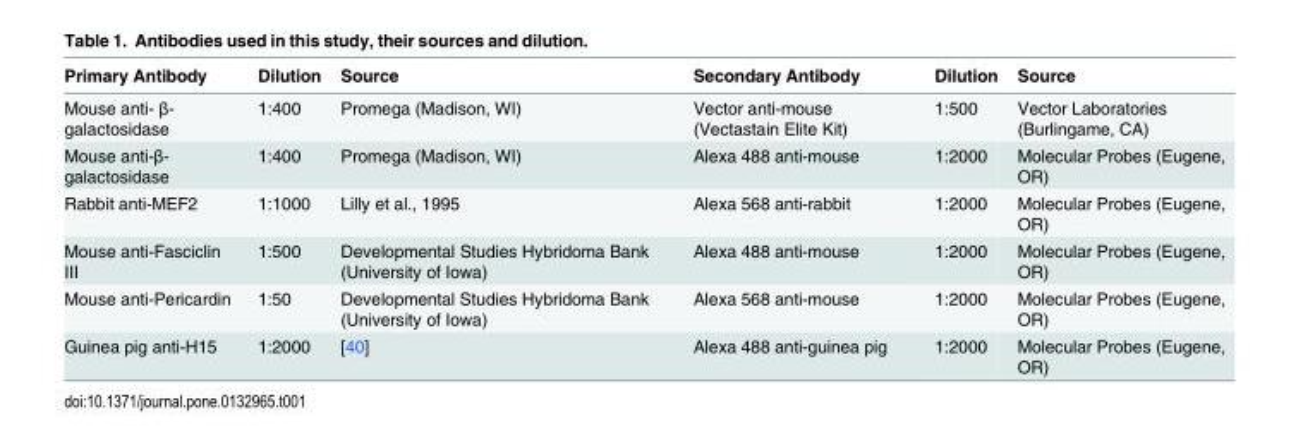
<table><thead><tr><td>Primary Antibody</td><td>Dilution</td><td>Source</td><td>Secondary Antibody</td><td>Dilution</td><td>Source</td></tr></thead><tbody><tr><td>Mouse anti- β- galactosidase</td><td>1:400</td><td>Promega (Madison, WI)</td><td>Vector anti-mouse (Vectastain Elite Kit)</td><td>1:500</td><td>Vector Laboratories (Burlingame, CA)</td></tr><tr><td>Mouse anti-β- galactosidase</td><td>1:400</td><td>Promega (Madison, WI)</td><td>Alexa 488 anti-mouse</td><td>1:2000</td><td>Molecular Probes (Eugene, OR)</td></tr><tr><td>Rabbit anti-MEF2</td><td>1:1000</td><td>Lilly et al., 1995</td><td>Alexa 568 anti-rabbit</td><td>1:2000</td><td>Molecular Probes (Eugene, OR)</td></tr><tr><td>Mouse anti-Fasciclin III</td><td>1:500</td><td>Developmental Studies Hybridoma Bank (University of Iowa)</td><td>Alexa 488 anti-mouse</td><td>1:2000</td><td>Molecular Probes (Eugene, OR)</td></tr><tr><td>Mouse anti-Pericardin</td><td>1:50</td><td>Developmental Studies Hybridoma Bank (University of Iowa)</td><td>Alexa 568 anti-mouse</td><td>1:2000</td><td>Molecular Probes (Eugene, OR)</td></tr><tr><td>Guinea pig anti-H15</td><td>1:2000</td><td>[40]</td><td>Alexa 488 anti-guinea pig</td><td>1:2000</td><td>Molecular Probes (Eugene, OR)</td></tr></tbody></table>